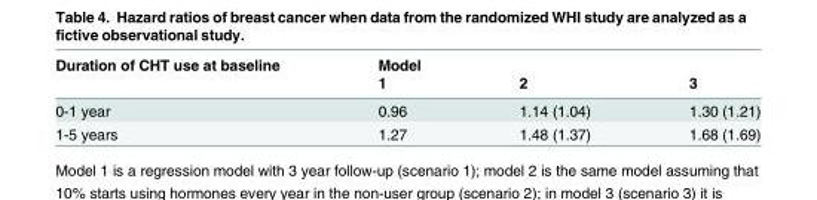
<table><thead><tr><td rowspan="2">Duration of CHT use at baseline</td><td rowspan="2">Model 1</td><td rowspan="2">2</td><td rowspan="2">3</td></tr><tr></tr></thead><tbody><tr><td>0-1 year</td><td>0.96</td><td>1.14 (1.04)</td><td>1.30 (1.21)</td></tr><tr><td>1-5 years</td><td>1.27</td><td>1.48 (1.37)</td><td>1.68 (1.69)</td></tr></tbody></table>